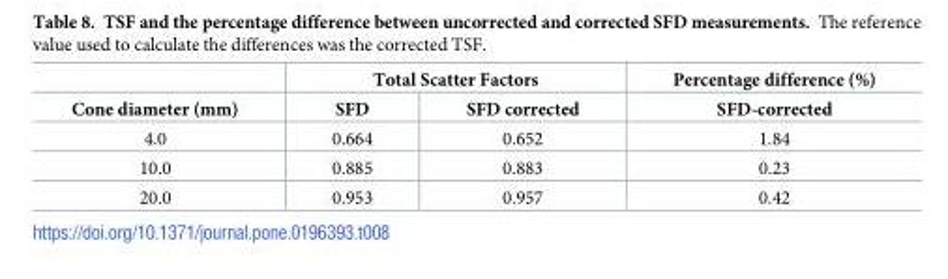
<table><thead><tr><td rowspan="2">Cone diameter (mm)</td><td colspan="2">Total Scatter Factors</td><td rowspan="2">Percentage difference (%) SFD-corrected</td></tr><tr><td>SFD</td><td>SFD corrected</td></tr></thead><tbody><tr><td>4.0</td><td>0.664</td><td>0.652</td><td>1.84</td></tr><tr><td>10.0</td><td>0.885</td><td>0.883</td><td>0.23</td></tr><tr><td>20.0</td><td>0.953</td><td>0.957</td><td>0.42</td></tr></tbody></table>